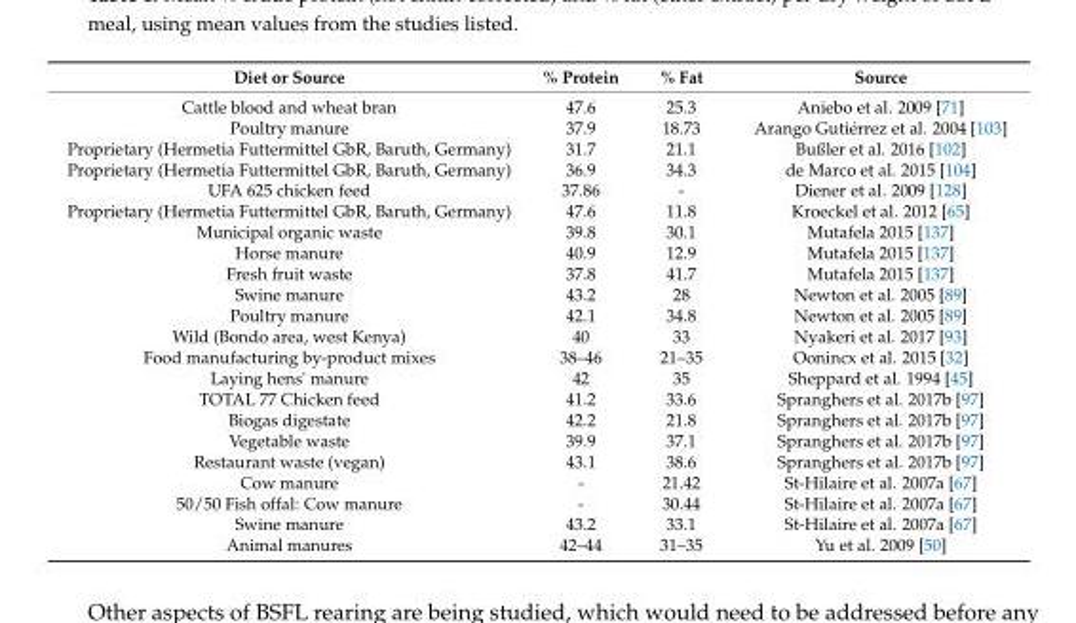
<table><thead><tr><td>Diet or Source</td><td>% Protein</td><td>% Fat</td><td>Source</td></tr></thead><tbody><tr><td>Cattle blood and wheat bran</td><td>47.6</td><td>25.3</td><td>Aniebo et al. 2009 [71]</td></tr><tr><td>Poultry manure</td><td>37.9</td><td>18.73</td><td>Arango Gutiérrez et al. 2004 [103]</td></tr><tr><td>Proprietary (Hermetia Futtermittel GbR, Baruth, Germany)</td><td>31.7</td><td>21.1</td><td>Bußler et al. 2016 [102]</td></tr><tr><td>Proprietary (Hermetia Futtermittel GbR, Baruth, Germany)</td><td>36.9</td><td>34.3</td><td>de Marco et al. 2015 [104]</td></tr><tr><td>UFA 625 chicken feed</td><td>37.86</td><td>-</td><td>Diener et al. 2009 [128]</td></tr><tr><td>Proprietary (Hermetia Futtermittel GbR, Baruth, Germany)</td><td>47.6</td><td>11.8</td><td>Kroeckel et al. 2012 [65]</td></tr><tr><td>Municipal organic waste</td><td>39.8</td><td>30.1</td><td>Mutafela 2015 [137]</td></tr><tr><td>Horse manure</td><td>40.9</td><td>12.9</td><td>Mutafela 2015 [137]</td></tr><tr><td>Fresh fruit waste</td><td>37.8</td><td>41.7</td><td>Mutafela 2015 [137]</td></tr><tr><td>Swine manure</td><td>43.2</td><td>28</td><td>Newton et al. 2005 [89]</td></tr><tr><td>Poultry manure</td><td>42.1</td><td>34.8</td><td>Newton et al. 2005 [89]</td></tr><tr><td>Wild (Bondo area, west Kenya)</td><td>40</td><td>33</td><td>Nyakeri et al. 2017 [93]</td></tr><tr><td>Food manufacturing by-product mixes</td><td>38–46</td><td>21–35</td><td>Oonincx et al. 2015 [32]</td></tr><tr><td>Laying hens&#x27; manure</td><td>42</td><td>35</td><td>Sheppard et al. 1994 [45]</td></tr><tr><td>TOTAL 77 Chicken feed</td><td>41.2</td><td>33.6</td><td>Spranghers et al. 2017b [97]</td></tr><tr><td>Biogas digestate</td><td>42.2</td><td>21.8</td><td>Spranghers et al. 2017b [97]</td></tr><tr><td>Vegetable waste</td><td>39.9</td><td>37.1</td><td>Spranghers et al. 2017b [97]</td></tr><tr><td>Restaurant waste (vegan)</td><td>43.1</td><td>38.6</td><td>Spranghers et al. 2017b [97]</td></tr><tr><td>Cow manure</td><td>-</td><td>21.42</td><td>St-Hilaire et al. 2007a [67]</td></tr><tr><td>50/50 Fish offal: Cow manure</td><td>-</td><td>30.44</td><td>St-Hilaire et al. 2007a [67]</td></tr><tr><td>Swine manure</td><td>43.2</td><td>33.1</td><td>St-Hilaire et al. 2007a [67]</td></tr><tr><td>Animal manures</td><td>42–44</td><td>31–35</td><td>Yu et al. 2009 [50]</td></tr></tbody></table>